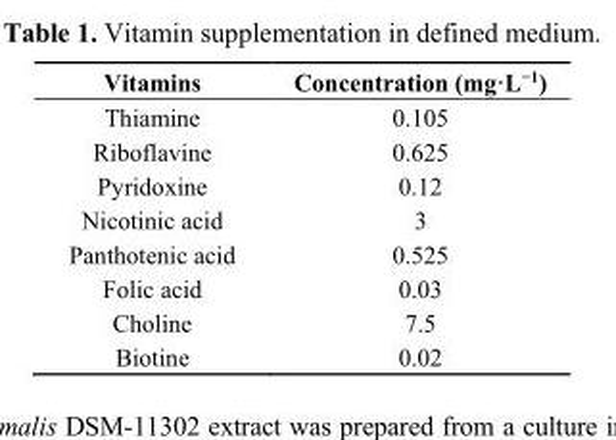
<table><thead><tr><td>Vitamins</td><td>Concentration (mg·L<sup>−1</sup>)</td></tr></thead><tbody><tr><td>Thiamine</td><td>0.105</td></tr><tr><td>Riboflavine</td><td>0.625</td></tr><tr><td>Pyridoxine</td><td>0.12</td></tr><tr><td>Nicotinic acid</td><td>3</td></tr><tr><td>Panthotenic acid</td><td>0.525</td></tr><tr><td>Folic acid</td><td>0.03</td></tr><tr><td>Choline</td><td>7.5</td></tr><tr><td>Biotine</td><td>0.02</td></tr></tbody></table>